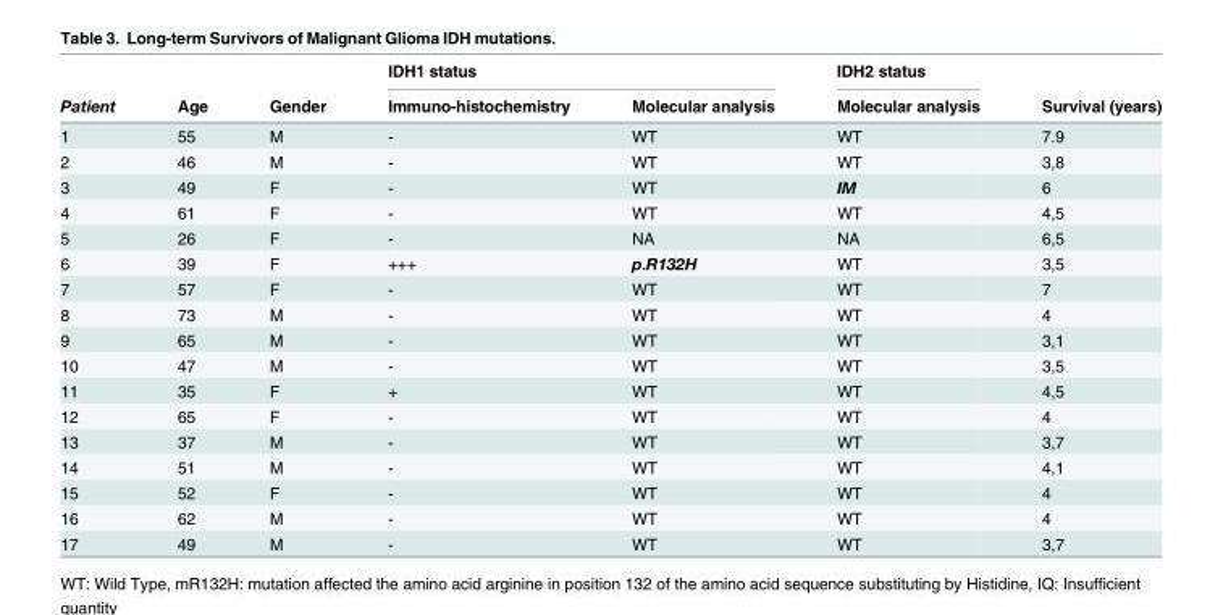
<table><thead><tr><td rowspan="2">Patient</td><td rowspan="2">Age</td><td rowspan="2">Gender</td><td colspan="2">IDH1 status</td><td rowspan="2">IDH2 status Molecular analysis</td><td rowspan="2">Survival (years)</td></tr><tr><td>Immuno-histochemistry</td><td>Molecular analysis</td></tr></thead><tbody><tr><td>1</td><td>55</td><td>M</td><td>-</td><td>WT</td><td>WT</td><td>7.9</td></tr><tr><td>2</td><td>46</td><td>M</td><td>-</td><td>WT</td><td>WT</td><td>3,8</td></tr><tr><td>3</td><td>49</td><td>F</td><td>-</td><td>WT</td><td>IM</td><td>6</td></tr><tr><td>4</td><td>61</td><td>F</td><td>-</td><td>WT</td><td>WT</td><td>4,5</td></tr><tr><td>5</td><td>26</td><td>F</td><td>-</td><td>NA</td><td>NA</td><td>6,5</td></tr><tr><td>6</td><td>39</td><td>F</td><td>+++</td><td>p.R132H</td><td>WT</td><td>3,5</td></tr><tr><td>7</td><td>57</td><td>F</td><td>-</td><td>WT</td><td>WT</td><td>7</td></tr><tr><td>8</td><td>73</td><td>M</td><td>-</td><td>WT</td><td>WT</td><td>4</td></tr><tr><td>9</td><td>65</td><td>M</td><td>-</td><td>WT</td><td>WT</td><td>3,1</td></tr><tr><td>10</td><td>47</td><td>M</td><td>-</td><td>WT</td><td>WT</td><td>3,5</td></tr><tr><td>11</td><td>35</td><td>F</td><td>+</td><td>WT</td><td>WT</td><td>4,5</td></tr><tr><td>12</td><td>65</td><td>F</td><td>-</td><td>WT</td><td>WT</td><td>4</td></tr><tr><td>13</td><td>37</td><td>M</td><td>-</td><td>WT</td><td>WT</td><td>3,7</td></tr><tr><td>14</td><td>51</td><td>M</td><td>-</td><td>WT</td><td>WT</td><td>4,1</td></tr><tr><td>15</td><td>52</td><td>F</td><td>-</td><td>WT</td><td>WT</td><td>4</td></tr><tr><td>16</td><td>62</td><td>M</td><td>-</td><td>WT</td><td>WT</td><td>4</td></tr><tr><td>17</td><td>49</td><td>M</td><td>-</td><td>WT</td><td>WT</td><td>3,7</td></tr></tbody></table>